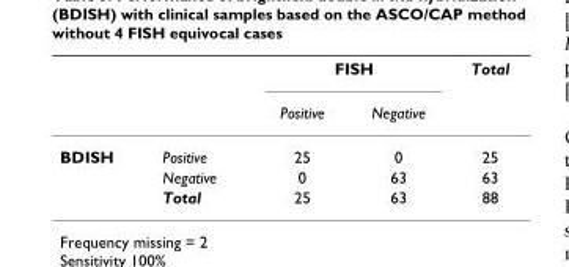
<table><thead><tr><td rowspan="2"></td><td rowspan="2"></td><td colspan="2">FISH</td><td rowspan="2">Total</td></tr><tr><td>Positive</td><td>Negative</td></tr></thead><tbody><tr><td rowspan="3">BDISH</td><td>Positive</td><td>25</td><td>0</td><td>25</td></tr><tr><td>Negative</td><td>0</td><td>63</td><td>63</td></tr><tr><td>Total</td><td>25</td><td>63</td><td>88</td></tr></tbody></table>